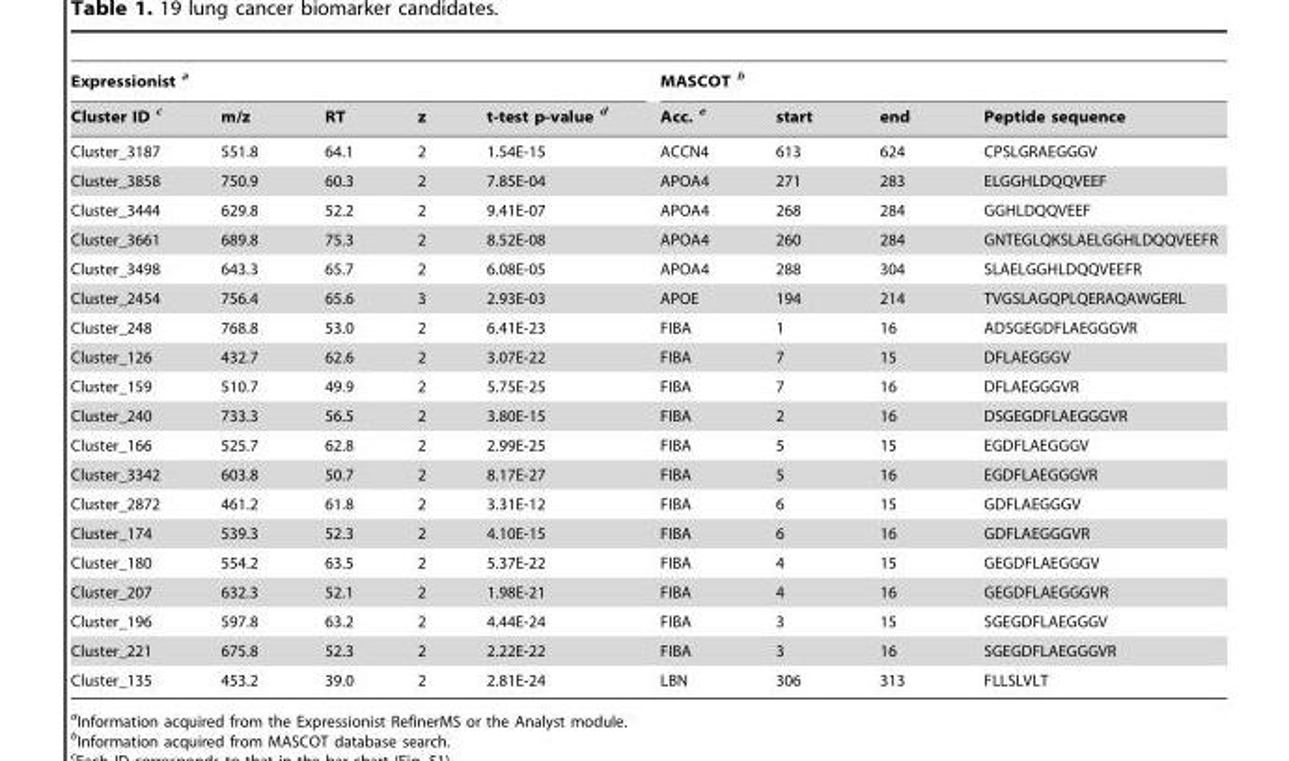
<table><thead><tr><td colspan="5">Expressionist a</td><td colspan="4">MASCOT b</td></tr><tr><td>Cluster ID c</td><td>m/z</td><td>RT</td><td>z</td><td>t-test p-value d</td><td>Acc. e</td><td>start</td><td>end</td><td>Peptide sequence</td></tr></thead><tbody><tr><td>Cluster_3187</td><td>551.8</td><td>64.1</td><td>2</td><td>1.54E-15</td><td>ACCN4</td><td>613</td><td>624</td><td>CPSLGRAEGGGV</td></tr><tr><td>Cluster_3858</td><td>750.9</td><td>60.3</td><td>2</td><td>7.85E-04</td><td>APOA4</td><td>271</td><td>283</td><td>ELGGHLDQQVEEF</td></tr><tr><td>Cluster_3444</td><td>629.8</td><td>52.2</td><td>2</td><td>9.41E-07</td><td>APOA4</td><td>268</td><td>284</td><td>GGHLDQQVEEF</td></tr><tr><td>Cluster_3661</td><td>689.8</td><td>75.3</td><td>2</td><td>8.52E-08</td><td>APOA4</td><td>260</td><td>284</td><td>GNTEGLQKSLAELGGHLDQQVEEFR</td></tr><tr><td>Cluster_3498</td><td>643.3</td><td>65.7</td><td>2</td><td>6.08E-05</td><td>APOA4</td><td>288</td><td>304</td><td>SLAELGGHLDQQVEEFR</td></tr><tr><td>Cluster_2454</td><td>756.4</td><td>65.6</td><td>3</td><td>2.93E-03</td><td>APOE</td><td>194</td><td>214</td><td>TVGSLAGQPLQERAQAWGERL</td></tr><tr><td>Cluster_248</td><td>768.8</td><td>53.0</td><td>2</td><td>6.41E-23</td><td>FIBA</td><td>1</td><td>16</td><td>ADSGEGDFLAEGGGVR</td></tr><tr><td>Cluster_126</td><td>432.7</td><td>62.6</td><td>2</td><td>3.07E-22</td><td>FIBA</td><td>7</td><td>15</td><td>DFLAEGGGV</td></tr><tr><td>Cluster_159</td><td>510.7</td><td>49.9</td><td>2</td><td>5.75E-25</td><td>FIBA</td><td>7</td><td>16</td><td>DFLAEGGGVR</td></tr><tr><td>Cluster_240</td><td>733.3</td><td>56.5</td><td>2</td><td>3.80E-15</td><td>FIBA</td><td>2</td><td>16</td><td>DSGEGDFLAEGGGVR</td></tr><tr><td>Cluster_166</td><td>525.7</td><td>62.8</td><td>2</td><td>2.99E-25</td><td>FIBA</td><td>5</td><td>15</td><td>EGDFLAEGGGV</td></tr><tr><td>Cluster_3342</td><td>603.8</td><td>50.7</td><td>2</td><td>8.17E-27</td><td>FIBA</td><td>5</td><td>16</td><td>EGDFLAEGGGVR</td></tr><tr><td>Cluster_2872</td><td>461.2</td><td>61.8</td><td>2</td><td>3.31E-12</td><td>FIBA</td><td>6</td><td>15</td><td>GDFLAEGGGV</td></tr><tr><td>Cluster_174</td><td>539.3</td><td>52.3</td><td>2</td><td>4.10E-15</td><td>FIBA</td><td>6</td><td>16</td><td>GDFLAEGGGVR</td></tr><tr><td>Cluster_180</td><td>554.2</td><td>63.5</td><td>2</td><td>5.37E-22</td><td>FIBA</td><td>4</td><td>15</td><td>GEGDFLAEGGGV</td></tr><tr><td>Cluster_207</td><td>632.3</td><td>52.1</td><td>2</td><td>1.98E-21</td><td>FIBA</td><td>4</td><td>16</td><td>GEGDFLAEGGGVR</td></tr><tr><td>Cluster_196</td><td>597.8</td><td>63.2</td><td>2</td><td>4.44E-24</td><td>FIBA</td><td>3</td><td>15</td><td>SGEGDFLAEGGGV</td></tr><tr><td>Cluster_221</td><td>675.8</td><td>52.3</td><td>2</td><td>2.22E-22</td><td>FIBA</td><td>3</td><td>16</td><td>SGEGDFLAEGGGVR</td></tr><tr><td>Cluster_135</td><td>453.2</td><td>39.0</td><td>2</td><td>2.81E-24</td><td>LBN</td><td>306</td><td>313</td><td>FLLSLVLT</td></tr></tbody></table>